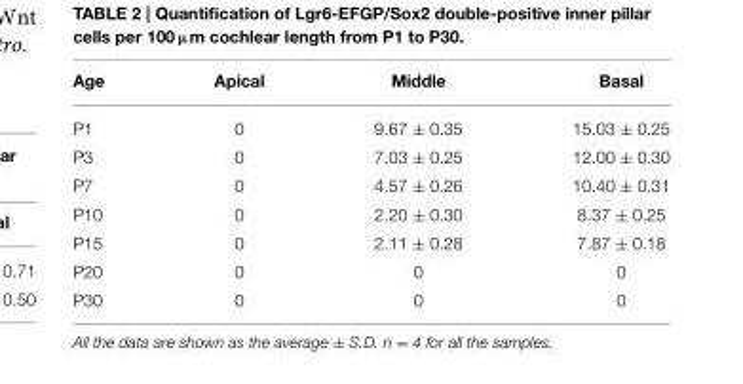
<table><thead><tr><td>Age</td><td>Apical</td><td>Middle</td><td>Basal</td></tr></thead><tbody><tr><td>P1</td><td>0</td><td>9.67 ± 0.35</td><td>15.03 ± 0.25</td></tr><tr><td>P3</td><td>0</td><td>7.03 ± 0.25</td><td>12.00 ± 0.30</td></tr><tr><td>P7</td><td>0</td><td>4.57 ± 0.26</td><td>10.40 ± 0.31</td></tr><tr><td>P10</td><td>0</td><td>2.20 ± 0.30</td><td>8.37 ± 0.25</td></tr><tr><td>P15</td><td>0</td><td>2.11 ± 0.28</td><td>7.87 ± 0.18</td></tr><tr><td>P20</td><td>0</td><td>0</td><td>0</td></tr><tr><td>P30</td><td>0</td><td>0</td><td>0</td></tr></tbody></table>